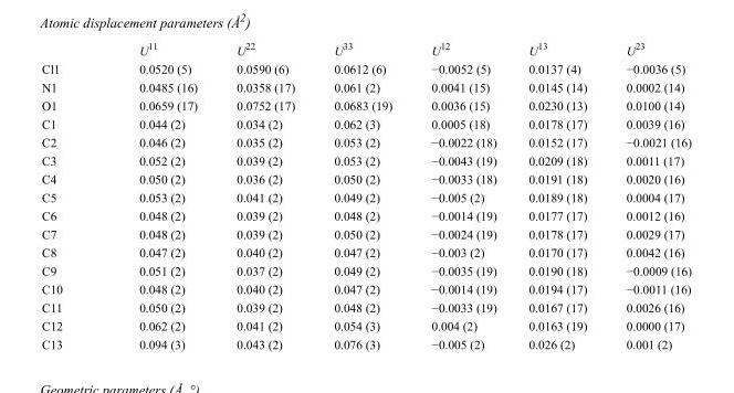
<table><thead><tr><td></td><td>U<sup>11</sup></td><td>U<sup>22</sup></td><td>U<sup>33</sup></td><td>U<sup>12</sup></td><td>U<sup>13</sup></td><td>U<sup>23</sup></td></tr></thead><tbody><tr><td>Cl1</td><td>0.0520 (5)</td><td>0.0590 (6)</td><td>0.0612 (6)</td><td>−0.0052 (5)</td><td>0.0137 (4)</td><td>−0.0036 (5)</td></tr><tr><td>N1</td><td>0.0485 (16)</td><td>0.0358 (17)</td><td>0.061 (2)</td><td>0.0041 (15)</td><td>0.0145 (14)</td><td>0.0002 (14)</td></tr><tr><td>O1</td><td>0.0659 (17)</td><td>0.0752 (17)</td><td>0.0683 (19)</td><td>0.0036 (15)</td><td>0.0230 (13)</td><td>0.0100 (14)</td></tr><tr><td>C1</td><td>0.044 (2)</td><td>0.034 (2)</td><td>0.062 (3)</td><td>0.0005 (18)</td><td>0.0178 (17)</td><td>0.0039 (16)</td></tr><tr><td>C2</td><td>0.046 (2)</td><td>0.035 (2)</td><td>0.053 (2)</td><td>−0.0022 (18)</td><td>0.0152 (17)</td><td>−0.0021 (16)</td></tr><tr><td>C3</td><td>0.052 (2)</td><td>0.039 (2)</td><td>0.053 (2)</td><td>−0.0043 (19)</td><td>0.0209 (18)</td><td>0.0011 (17)</td></tr><tr><td>C4</td><td>0.050 (2)</td><td>0.036 (2)</td><td>0.050 (2)</td><td>−0.0033 (18)</td><td>0.0191 (18)</td><td>0.0020 (16)</td></tr><tr><td>C5</td><td>0.053 (2)</td><td>0.041 (2)</td><td>0.049 (2)</td><td>−0.005 (2)</td><td>0.0189 (18)</td><td>0.0004 (17)</td></tr><tr><td>C6</td><td>0.048 (2)</td><td>0.039 (2)</td><td>0.048 (2)</td><td>−0.0014 (19)</td><td>0.0177 (17)</td><td>0.0012 (16)</td></tr><tr><td>C7</td><td>0.048 (2)</td><td>0.039 (2)</td><td>0.050 (2)</td><td>−0.0024 (19)</td><td>0.0178 (17)</td><td>0.0029 (17)</td></tr><tr><td>C8</td><td>0.047 (2)</td><td>0.040 (2)</td><td>0.047 (2)</td><td>−0.003 (2)</td><td>0.0170 (17)</td><td>0.0042 (16)</td></tr><tr><td>C9</td><td>0.051 (2)</td><td>0.037 (2)</td><td>0.049 (2)</td><td>−0.0035 (19)</td><td>0.0190 (18)</td><td>−0.0009 (16)</td></tr><tr><td>C10</td><td>0.048 (2)</td><td>0.040 (2)</td><td>0.047 (2)</td><td>−0.0014 (19)</td><td>0.0194 (17)</td><td>−0.0011 (16)</td></tr><tr><td>C11</td><td>0.050 (2)</td><td>0.039 (2)</td><td>0.048 (2)</td><td>−0.0033 (19)</td><td>0.0167 (17)</td><td>0.0026 (16)</td></tr><tr><td>C12</td><td>0.062 (2)</td><td>0.041 (2)</td><td>0.054 (3)</td><td>0.004 (2)</td><td>0.0163 (19)</td><td>0.0000 (17)</td></tr><tr><td>C13</td><td>0.094 (3)</td><td>0.043 (2)</td><td>0.076 (3)</td><td>−0.005 (2)</td><td>0.026 (2)</td><td>0.001 (2)</td></tr></tbody></table>